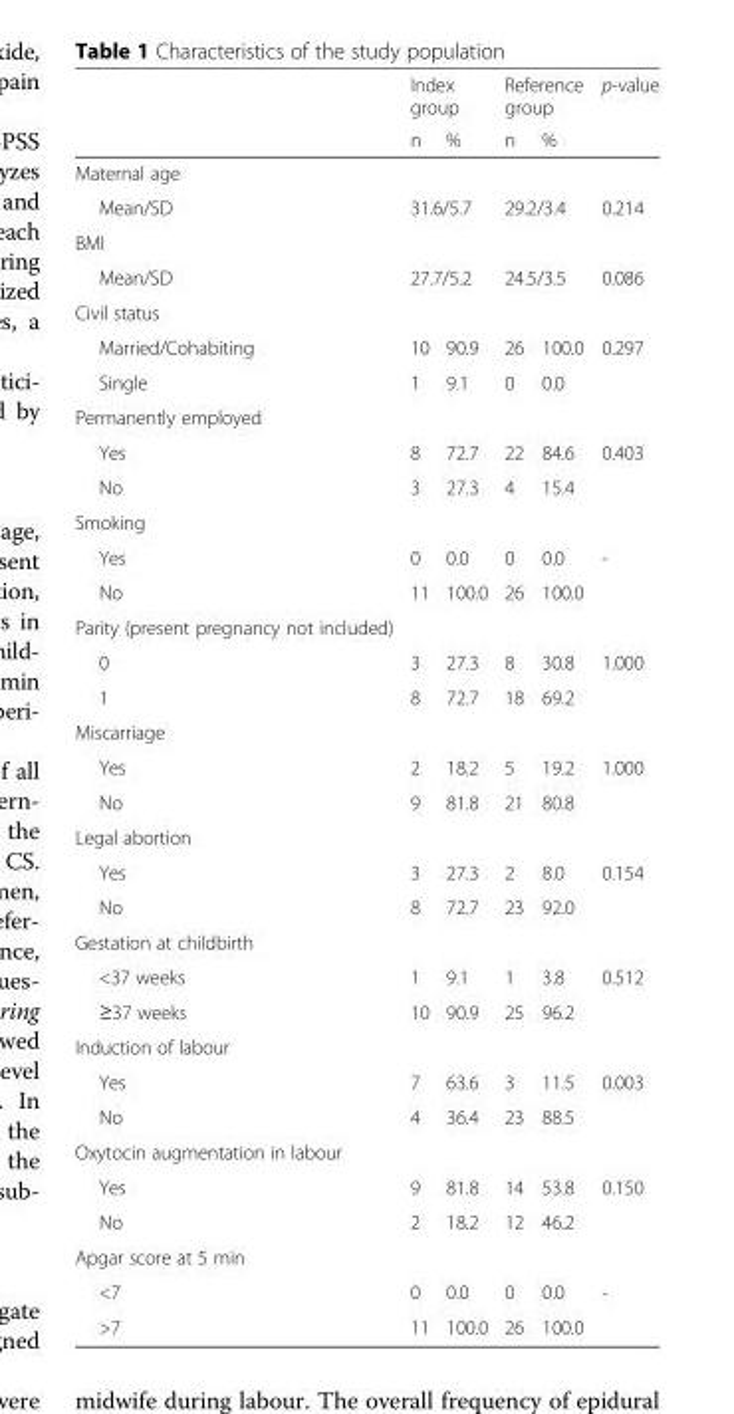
<table><thead><tr><td rowspan="2"></td><td colspan="2">Index group</td><td colspan="2">Reference group</td><td rowspan="2">p-value</td></tr><tr><td>n</td><td>%</td><td>n</td><td>%</td></tr></thead><tbody><tr><td colspan="6">Maternal age</td></tr><tr><td>Mean/SD</td><td colspan="2">31.6/5.7</td><td colspan="2">29.2/3.4</td><td>0.214</td></tr><tr><td colspan="6">BMI</td></tr><tr><td>Mean/SD</td><td colspan="2">27.7/5.2</td><td colspan="2">24.5/3.5</td><td>0.086</td></tr><tr><td colspan="6">Civil status</td></tr><tr><td>Married/Cohabiting</td><td>10</td><td>90.9</td><td>26</td><td>100.0</td><td>0.297</td></tr><tr><td>Single</td><td>1</td><td>9.1</td><td>0</td><td>0.0</td><td></td></tr><tr><td colspan="6">Permanently employed</td></tr><tr><td>Yes</td><td>8</td><td>72.7</td><td>22</td><td>84.6</td><td>0.403</td></tr><tr><td>No</td><td>3</td><td>27.3</td><td>4</td><td>15.4</td><td></td></tr><tr><td colspan="6">Smoking</td></tr><tr><td>Yes</td><td>0</td><td>0.0</td><td>0</td><td>0.0</td><td>-</td></tr><tr><td>No</td><td>11</td><td>100.0</td><td>26</td><td>100.0</td><td></td></tr><tr><td colspan="6">Parity (present pregnancy not included)</td></tr><tr><td>0</td><td>3</td><td>27.3</td><td>8</td><td>30.8</td><td>1.000</td></tr><tr><td>1</td><td>8</td><td>72.7</td><td>18</td><td>69.2</td><td></td></tr><tr><td colspan="6">Miscarriage</td></tr><tr><td>Yes</td><td>2</td><td>18.2</td><td>5</td><td>19.2</td><td>1.000</td></tr><tr><td>No</td><td>9</td><td>81.8</td><td>21</td><td>80.8</td><td></td></tr><tr><td colspan="6">Legal abortion</td></tr><tr><td>Yes</td><td>3</td><td>27.3</td><td>2</td><td>8.0</td><td>0.154</td></tr><tr><td>No</td><td>8</td><td>72.7</td><td>23</td><td>92.0</td><td></td></tr><tr><td colspan="6">Gestation at childbirth</td></tr><tr><td>&lt;37 weeks</td><td>1</td><td>9.1</td><td>1</td><td>3.8</td><td>0.512</td></tr><tr><td>≥37 weeks</td><td>10</td><td>90.9</td><td>25</td><td>96.2</td><td></td></tr><tr><td colspan="6">Induction of labour</td></tr><tr><td>Yes</td><td>7</td><td>63.6</td><td>3</td><td>11.5</td><td>0.003</td></tr><tr><td>No</td><td>4</td><td>36.4</td><td>23</td><td>88.5</td><td></td></tr><tr><td colspan="6">Oxytocin augmentation in labour</td></tr><tr><td>Yes</td><td>9</td><td>81.8</td><td>14</td><td>53.8</td><td>0.150</td></tr><tr><td>No</td><td>2</td><td>18.2</td><td>12</td><td>46.2</td><td></td></tr><tr><td colspan="6">Apgar score at 5 min</td></tr><tr><td>&lt;7</td><td>0</td><td>0.0</td><td>0</td><td>0.0</td><td>-</td></tr><tr><td>&gt;7</td><td>11</td><td>100.0</td><td>26</td><td>100.0</td><td></td></tr></tbody></table>